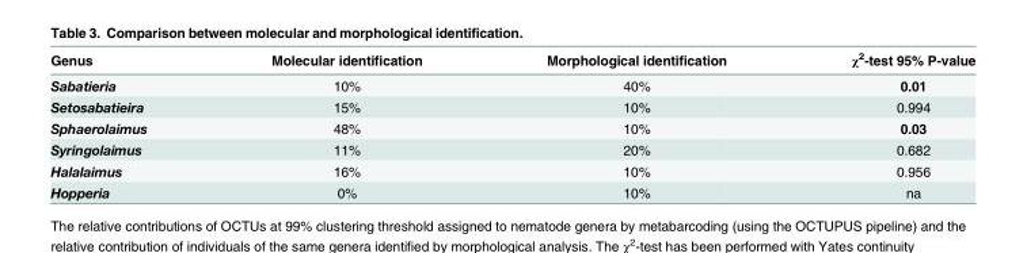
<table><thead><tr><td>Genus</td><td>Molecular identification</td><td>Morphological identification</td><td>χ<sup>2</sup>-test 95% P-value</td></tr></thead><tbody><tr><td>Sabatieria</td><td>10%</td><td>40%</td><td>0.01</td></tr><tr><td>Setosabatieira</td><td>15%</td><td>10%</td><td>0.994</td></tr><tr><td>Sphaerolaimus</td><td>48%</td><td>10%</td><td>0.03</td></tr><tr><td>Syringolaimus</td><td>11%</td><td>20%</td><td>0.682</td></tr><tr><td>Halalaimus</td><td>16%</td><td>10%</td><td>0.956</td></tr><tr><td>Hopperia</td><td>0%</td><td>10%</td><td>na</td></tr></tbody></table>